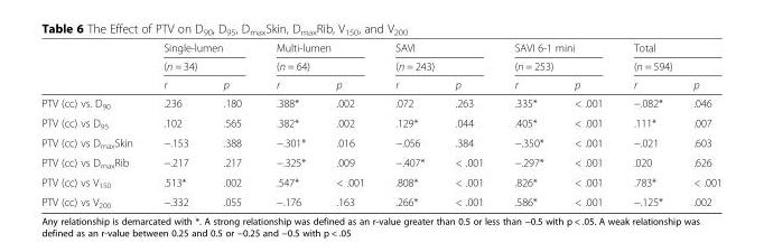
<table><thead><tr><td rowspan="3"></td><td rowspan="2" colspan="2">Single-lumen (n = 34)</td><td rowspan="2" colspan="2">Multi-lumen (n = 64)</td><td rowspan="2" colspan="2">SAVI (n = 243)</td><td rowspan="2" colspan="2">SAVI 6-1 mini (n = 253)</td><td rowspan="2" colspan="2">Total (n = 594)</td></tr><tr></tr><tr><td>r</td><td>p</td><td>r</td><td>p</td><td>r</td><td>p</td><td>r</td><td>p</td><td>r</td><td>p</td></tr></thead><tbody><tr><td>PTV (cc) vs. D<sub>90</sub></td><td>.236</td><td>.180</td><td>.388*</td><td>.002</td><td>.072</td><td>.263</td><td>.335*</td><td>&lt; .001</td><td>−.082*</td><td>.046</td></tr><tr><td>PTV (cc) vs D<sub>95</sub></td><td>.102</td><td>.565</td><td>.382*</td><td>.002</td><td>.129*</td><td>.044</td><td>.405*</td><td>&lt; .001</td><td>.111*</td><td>.007</td></tr><tr><td>PTV (cc) vs D<sub>max</sub>Skin</td><td>−.153</td><td>.388</td><td>−.301*</td><td>.016</td><td>−.056</td><td>.384</td><td>−.350*</td><td>&lt; .001</td><td>−.021</td><td>.603</td></tr><tr><td>PTV (cc) vs D<sub>max</sub>Rib</td><td>−.217</td><td>.217</td><td>−.325*</td><td>.009</td><td>−.407*</td><td>&lt; .001</td><td>−.297*</td><td>&lt; .001</td><td>.020</td><td>.626</td></tr><tr><td>PTV (cc) vs V<sub>150</sub></td><td>.513*</td><td>.002</td><td>.547*</td><td>&lt; .001</td><td>.808*</td><td>&lt; .001</td><td>.826*</td><td>&lt; .001</td><td>.783*</td><td>&lt; .001</td></tr><tr><td>PTV (cc) vs V<sub>200</sub></td><td>−.332</td><td>.055</td><td>−.176</td><td>.163</td><td>.266*</td><td>&lt; .001</td><td>.586*</td><td>&lt; .001</td><td>−.125*</td><td>.002</td></tr></tbody></table>